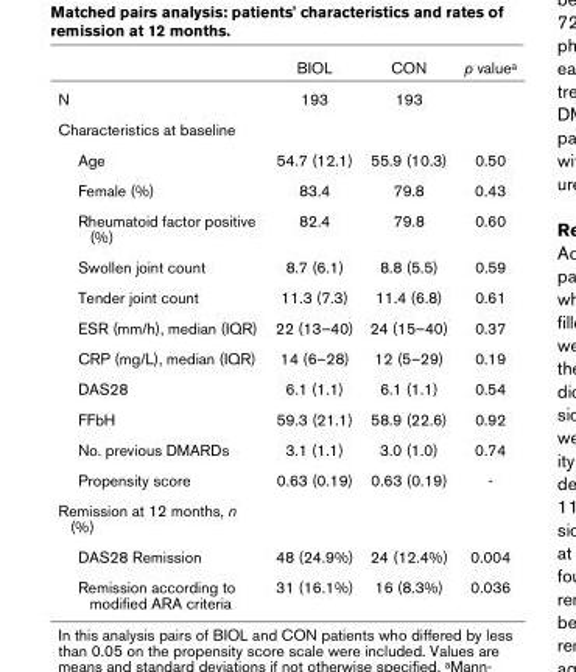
<table><thead><tr><td></td><td>BIOL</td><td>CON</td><td>p valuea</td></tr></thead><tbody><tr><td>N</td><td>193</td><td>193</td><td></td></tr><tr><td colspan="4">Characteristics at baseline</td></tr><tr><td>Age</td><td>54.7 (12.1)</td><td>55.9 (10.3)</td><td>0.50</td></tr><tr><td>Female (%)</td><td>83.4</td><td>79.8</td><td>0.43</td></tr><tr><td>Rheumatoid factor positive (%)</td><td>82.4</td><td>79.8</td><td>0.60</td></tr><tr><td>Swollen joint count</td><td>8.7 (6.1)</td><td>8.8 (5.5)</td><td>0.59</td></tr><tr><td>Tender joint count</td><td>11.3 (7.3)</td><td>11.4 (6.8)</td><td>0.61</td></tr><tr><td>ESR (mm/h), median (IQR)</td><td>22 (13–40)</td><td>24 (15–40)</td><td>0.37</td></tr><tr><td>CRP (mg/L), median (IQR)</td><td>14 (6–28)</td><td>12 (5–29)</td><td>0.19</td></tr><tr><td>DAS28</td><td>6.1 (1.1)</td><td>6.1 (1.1)</td><td>0.54</td></tr><tr><td>FFbH</td><td>59.3 (21.1)</td><td>58.9 (22.6)</td><td>0.92</td></tr><tr><td>No. previous DMARDs</td><td>3.1 (1.1)</td><td>3.0 (1.0)</td><td>0.74</td></tr><tr><td>Propensity score</td><td>0.63 (0.19)</td><td>0.63 (0.19)</td><td>-</td></tr><tr><td colspan="4">Remission at 12 months, n (%)</td></tr><tr><td>DAS28 Remission</td><td>48 (24.9%)</td><td>24 (12.4%)</td><td>0.004</td></tr><tr><td>Remission according to modified ARA criteria</td><td>31 (16.1%)</td><td>16 (8.3%)</td><td>0.036</td></tr></tbody></table>